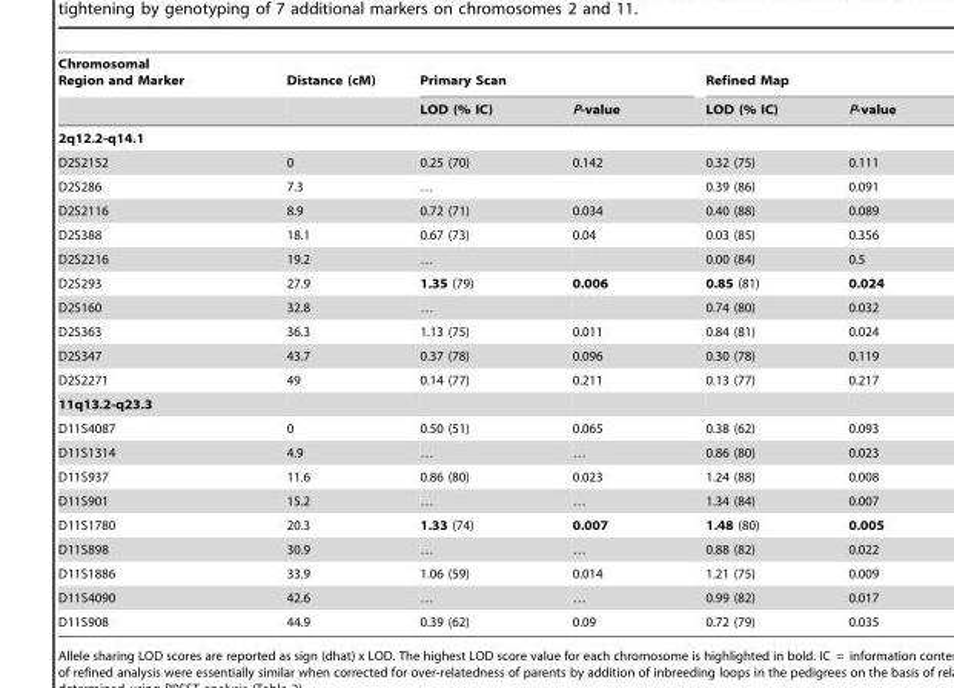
<table><thead><tr><td rowspan="2">Chromosomal Region and Marker</td><td rowspan="2">Distance (cM)</td><td colspan="2">Primary Scan</td><td colspan="2">Refined Map</td></tr><tr><td>LOD (% IC)</td><td>P-value</td><td>LOD (% IC)</td><td>P-value</td></tr></thead><tbody><tr><td colspan="6">2q12.2-q14.1</td></tr><tr><td>D2S2152</td><td>0</td><td>0.25 (70)</td><td>0.142</td><td>0.32 (75)</td><td>0.111</td></tr><tr><td>D2S286</td><td>7.3</td><td>…</td><td></td><td>0.39 (86)</td><td>0.091</td></tr><tr><td>D2S2116</td><td>8.9</td><td>0.72 (71)</td><td>0.034</td><td>0.40 (88)</td><td>0.089</td></tr><tr><td>D2S388</td><td>18.1</td><td>0.67 (73)</td><td>0.04</td><td>0.03 (85)</td><td>0.356</td></tr><tr><td>D2S2216</td><td>19.2</td><td>…</td><td></td><td>0.00 (84)</td><td>0.5</td></tr><tr><td>D2S293</td><td>27.9</td><td>1.35 (79)</td><td>0.006</td><td>0.85 (81)</td><td>0.024</td></tr><tr><td>D2S160</td><td>32.8</td><td>…</td><td></td><td>0.74 (80)</td><td>0.032</td></tr><tr><td>D2S363</td><td>36.3</td><td>1.13 (75)</td><td>0.011</td><td>0.84 (81)</td><td>0.024</td></tr><tr><td>D2S347</td><td>43.7</td><td>0.37 (78)</td><td>0.096</td><td>0.30 (78)</td><td>0.119</td></tr><tr><td>D2S2271</td><td>49</td><td>0.14 (77)</td><td>0.211</td><td>0.13 (77)</td><td>0.217</td></tr><tr><td colspan="6">11q13.2-q23.3</td></tr><tr><td>D11S4087</td><td>0</td><td>0.50 (51)</td><td>0.065</td><td>0.38 (62)</td><td>0.093</td></tr><tr><td>D11S1314</td><td>4.9</td><td>…</td><td>…</td><td>0.86 (80)</td><td>0.023</td></tr><tr><td>D11S937</td><td>11.6</td><td>0.86 (80)</td><td>0.023</td><td>1.24 (88)</td><td>0.008</td></tr><tr><td>D11S901</td><td>15.2</td><td>…</td><td>…</td><td>1.34 (84)</td><td>0.007</td></tr><tr><td>D11S1780</td><td>20.3</td><td>1.33 (74)</td><td>0.007</td><td>1.48 (80)</td><td>0.005</td></tr><tr><td>D11S898</td><td>30.9</td><td>…</td><td>…</td><td>0.88 (82)</td><td>0.022</td></tr><tr><td>D11S1886</td><td>33.9</td><td>1.06 (59)</td><td>0.014</td><td>1.21 (75)</td><td>0.009</td></tr><tr><td>D11S4090</td><td>42.6</td><td>…</td><td>…</td><td>0.99 (82)</td><td>0.017</td></tr><tr><td>D11S908</td><td>44.9</td><td>0.39 (62)</td><td>0.09</td><td>0.72 (79)</td><td>0.035</td></tr></tbody></table>